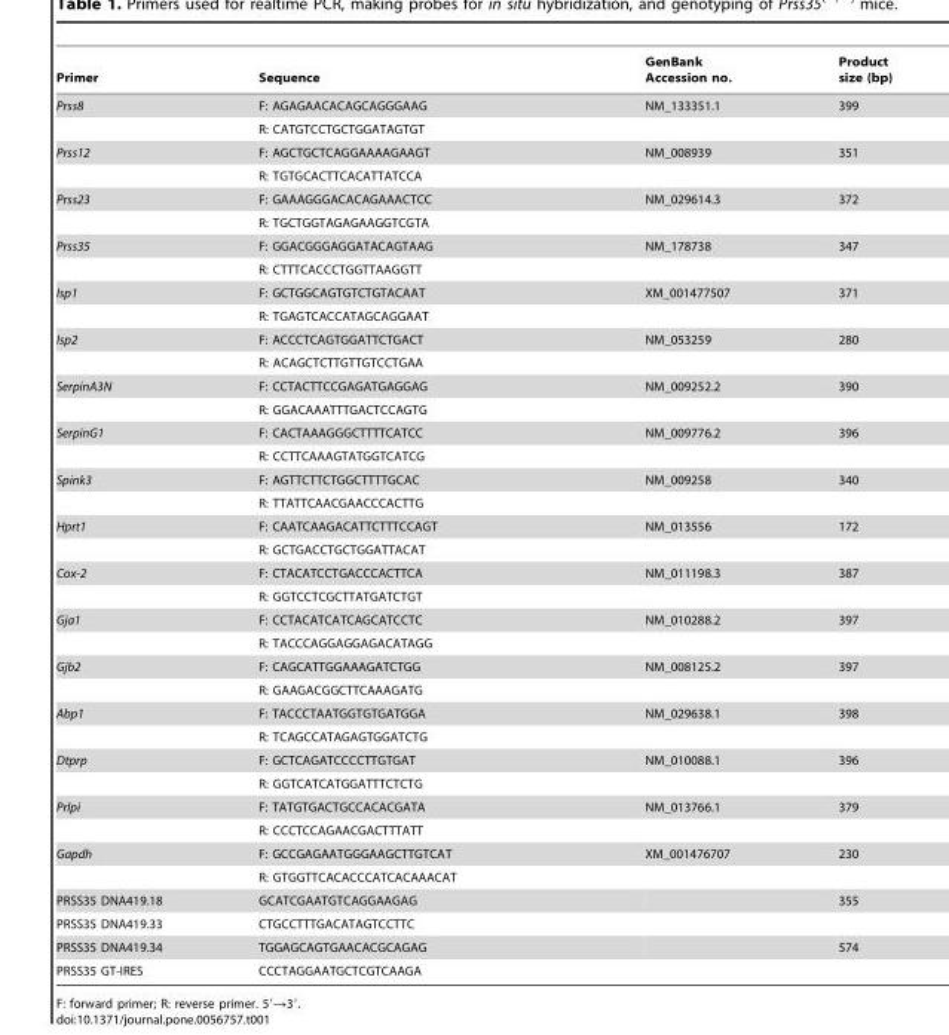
<table><thead><tr><td>Primer</td><td>Sequence</td><td>GenBank Accession no.</td><td>Product size (bp)</td></tr></thead><tbody><tr><td rowspan="2">Prss8</td><td>F: AGAGAACACAGCAGGGAAG</td><td>NM_133351.1</td><td>399</td></tr><tr><td>R: CATGTCCTGCTGGATAGTGT</td><td></td><td></td></tr><tr><td rowspan="2">Prss12</td><td>F: AGCTGCTCAGGAAAAGAAGT</td><td>NM_008939</td><td>351</td></tr><tr><td>R: TGTGCACTTCACATTATCCA</td><td></td><td></td></tr><tr><td rowspan="2">Prss23</td><td>F: GAAAGGGACACAGAAACTCC</td><td>NM_029614.3</td><td>372</td></tr><tr><td>R: TGCTGGTAGAGAAGGTCGTA</td><td></td><td></td></tr><tr><td rowspan="2">Prss35</td><td>F: GGACGGGAGGATACAGTAAG</td><td>NM_178738</td><td>347</td></tr><tr><td>R: CTTTCACCCTGGTTAAGGTT</td><td></td><td></td></tr><tr><td rowspan="2">Isp1</td><td>F: GCTGGCAGTGTCTGTACAAT</td><td>XM_001477507</td><td>371</td></tr><tr><td>R: TGAGTCACCATAGCAGGAAT</td><td></td><td></td></tr><tr><td rowspan="2">Isp2</td><td>F: ACCCTCAGTGGATTCTGACT</td><td>NM_053259</td><td>280</td></tr><tr><td>R: ACAGCTCTTGTTGTCCTGAA</td><td></td><td></td></tr><tr><td rowspan="2">SerpinA3N</td><td>F: CCTACTTCCGAGATGAGGAG</td><td>NM_009252.2</td><td>390</td></tr><tr><td>R: GGACAAATTTGACTCCAGTG</td><td></td><td></td></tr><tr><td rowspan="2">SerpinG1</td><td>F: CACTAAAGGGCTTTTCATCC</td><td>NM_009776.2</td><td>396</td></tr><tr><td>R: CCTTCAAAGTATGGTCATCG</td><td></td><td></td></tr><tr><td rowspan="2">Spink3</td><td>F: AGTTCTTCTGGCTTTTGCAC</td><td>NM_009258</td><td>340</td></tr><tr><td>R: TTATTCAACGAACCCACTTG</td><td></td><td></td></tr><tr><td rowspan="2">Hprt1</td><td>F: CAATCAAGACATTCTTTCCAGT</td><td>NM_013556</td><td>172</td></tr><tr><td>R: GCTGACCTGCTGGATTACAT</td><td></td><td></td></tr><tr><td rowspan="2">Cox-2</td><td>F: CTACATCCTGACCCACTTCA</td><td>NM_011198.3</td><td>387</td></tr><tr><td>R: GGTCCTCGCTTATGATCTGT</td><td></td><td></td></tr><tr><td rowspan="2">Gja1</td><td>F: CCTACATCATCAGCATCCTC</td><td>NM_010288.2</td><td>397</td></tr><tr><td>R: TACCCAGGAGGAGACATAGG</td><td></td><td></td></tr><tr><td rowspan="2">Gjb2</td><td>F: CAGCATTGGAAAGATCTGG</td><td>NM_008125.2</td><td>397</td></tr><tr><td>R: GAAGACGGCTTCAAAGATG</td><td></td><td></td></tr><tr><td rowspan="2">Abp1</td><td>F: TACCCTAATGGTGTGATGGA</td><td>NM_029638.1</td><td>398</td></tr><tr><td>R: TCAGCCATAGAGTGGATCTG</td><td></td><td></td></tr><tr><td rowspan="2">Dtprp</td><td>F: GCTCAGATCCCCTTGTGAT</td><td>NM_010088.1</td><td>396</td></tr><tr><td>R: GGTCATCATGGATTTCTCTG</td><td></td><td></td></tr><tr><td rowspan="2">Prlpi</td><td>F: TATGTGACTGCCACACGATA</td><td>NM_013766.1</td><td>379</td></tr><tr><td>R: CCCTCCAGAACGACTTTATT</td><td></td><td></td></tr><tr><td rowspan="2">Gapdh</td><td>F: GCCGAGAATGGGAAGCTTGTCAT</td><td>XM_001476707</td><td>230</td></tr><tr><td>R: GTGGTTCACACCCATCACAAACAT</td><td></td><td></td></tr><tr><td>PRSS35 DNA419.18</td><td>GCATCGAATGTCAGGAAGAG</td><td></td><td>355</td></tr><tr><td>PRSS35 DNA419.33</td><td>CTGCCTTTGACATAGTCCTTC</td><td></td><td></td></tr><tr><td>PRSS35 DNA419.34</td><td>TGGAGCAGTGAACACGCAGAG</td><td></td><td>574</td></tr><tr><td>PRSS35 GT-IRES</td><td>CCCTAGGAATGCTCGTCAAGA</td><td></td><td></td></tr></tbody></table>